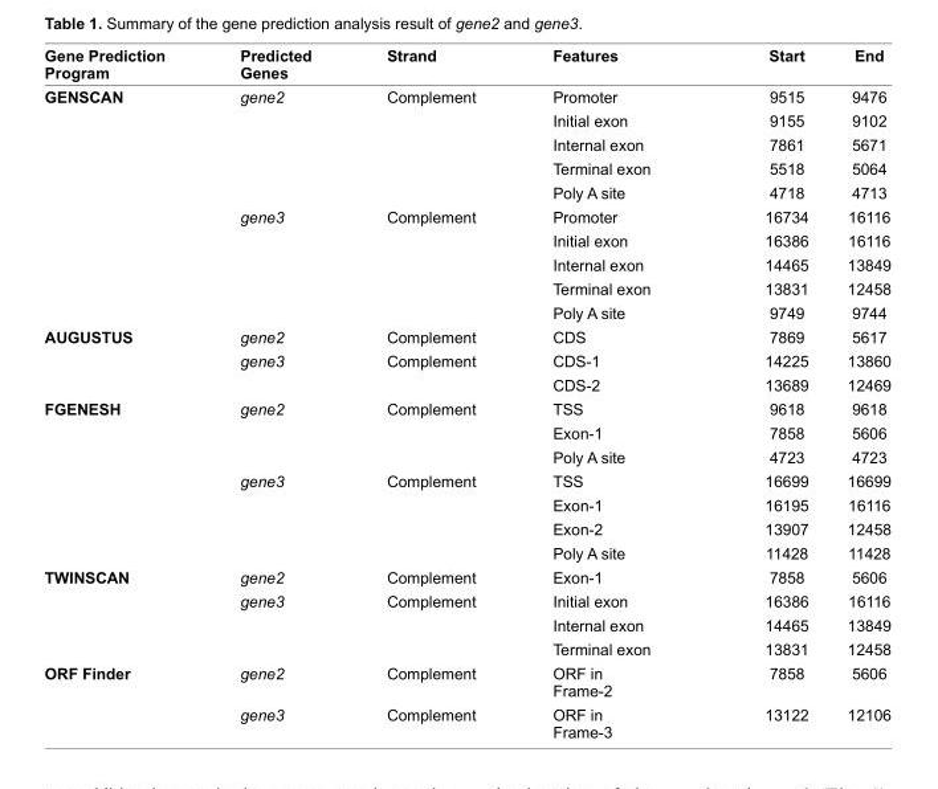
<table><thead><tr><td>Gene prediction Program</td><td>predicted Genes</td><td>strand</td><td>Features</td><td>start</td><td>end</td></tr></thead><tbody><tr><td rowspan="10">GenscAn</td><td>gene2</td><td>Complement</td><td>promoter</td><td>9515</td><td>9476</td></tr><tr><td></td><td></td><td>Initial exon</td><td>9155</td><td>9102</td></tr><tr><td></td><td></td><td>Internal exon</td><td>7861</td><td>5671</td></tr><tr><td></td><td></td><td>Terminal exon</td><td>5518</td><td>5064</td></tr><tr><td></td><td></td><td>poly A site</td><td>4718</td><td>4713</td></tr><tr><td>gene3</td><td>Complement</td><td>promoter</td><td>16734</td><td>16116</td></tr><tr><td></td><td></td><td>Initial exon</td><td>16386</td><td>16116</td></tr><tr><td></td><td></td><td>Internal exon</td><td>14465</td><td>13849</td></tr><tr><td></td><td></td><td>Terminal exon</td><td>13831</td><td>12458</td></tr><tr><td></td><td></td><td>poly A site</td><td>9749</td><td>9744</td></tr><tr><td rowspan="3">AUGUsTUs</td><td>gene2</td><td>Complement</td><td>CDs</td><td>7869</td><td>5617</td></tr><tr><td>gene3</td><td>Complement</td><td>CDs-1</td><td>14225</td><td>13860</td></tr><tr><td></td><td></td><td>CDs-2</td><td>13689</td><td>12469</td></tr><tr><td rowspan="7">FGENESH</td><td>gene2</td><td>Complement</td><td>Tss</td><td>9618</td><td>9618</td></tr><tr><td></td><td></td><td>exon-1</td><td>7858</td><td>5606</td></tr><tr><td></td><td></td><td>poly A site</td><td>4723</td><td>4723</td></tr><tr><td>gene3</td><td>Complement</td><td>Tss</td><td>16699</td><td>16699</td></tr><tr><td></td><td></td><td>exon-1</td><td>16195</td><td>16116</td></tr><tr><td></td><td></td><td>exon-2</td><td>13907</td><td>12458</td></tr><tr><td></td><td></td><td>poly A site</td><td>11428</td><td>11428</td></tr><tr><td rowspan="4">TWInscAn</td><td>gene2</td><td>Complement</td><td>exon-1</td><td>7858</td><td>5606</td></tr><tr><td>gene3</td><td>Complement</td><td>Initial exon</td><td>16386</td><td>16116</td></tr><tr><td></td><td></td><td>Internal exon</td><td>14465</td><td>13849</td></tr><tr><td></td><td></td><td>Terminal exon</td><td>13831</td><td>12458</td></tr><tr><td rowspan="2">ORF Finder</td><td>gene2</td><td>Complement</td><td>oRF in Frame-2</td><td>7858</td><td>5606</td></tr><tr><td>gene3</td><td>Complement</td><td>oRF in Frame-3</td><td>13122</td><td>12106</td></tr></tbody></table>